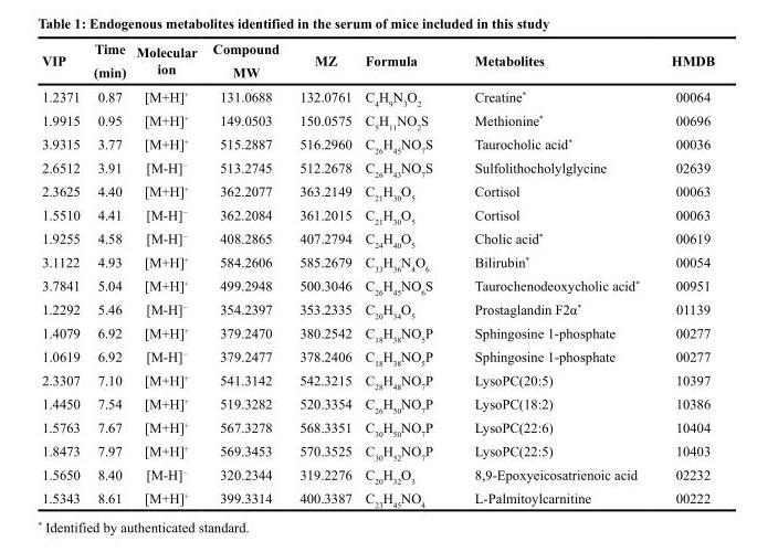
<table><thead><tr><td rowspan="2">VIP</td><td rowspan="2">Time (min)</td><td rowspan="2">Molecular ion</td><td rowspan="2">Compound MW</td><td rowspan="2">MZ</td><td rowspan="2">Formula</td><td rowspan="2">Metabolites</td><td rowspan="2">HMDB</td></tr><tr></tr></thead><tbody><tr><td>1.2371</td><td>0.87</td><td>[M+H]<sup>+</sup></td><td>131.0688</td><td>132.0761</td><td>C<sub>4</sub>H<sub>9</sub>N<sub>3</sub>O<sub>2</sub></td><td>Creatine*</td><td>00064</td></tr><tr><td>1.9915</td><td>0.95</td><td>[M+H]<sup>+</sup></td><td>149.0503</td><td>150.0575</td><td>C<sub>5</sub>H<sub>11</sub>NO<sub>2</sub>S</td><td>Methionine*</td><td>00696</td></tr><tr><td>3.9315</td><td>3.77</td><td>[M+H]<sup>+</sup></td><td>515.2887</td><td>516.2960</td><td>C<sub>26</sub>H<sub>45</sub>NO<sub>7</sub>S</td><td>Taurocholic acid*</td><td>00036</td></tr><tr><td>2.6512</td><td>3.91</td><td>[M-H]<sup>−</sup></td><td>513.2745</td><td>512.2678</td><td>C<sub>26</sub>H<sub>43</sub>NO<sub>7</sub>S</td><td>Sulfolithocholylglycine</td><td>02639</td></tr><tr><td>2.3625</td><td>4.40</td><td>[M+H]<sup>+</sup></td><td>362.2077</td><td>363.2149</td><td>C<sub>21</sub>H<sub>30</sub>O<sub>5</sub></td><td>Cortisol</td><td>00063</td></tr><tr><td>1.5510</td><td>4.41</td><td>[M-H]<sup>−</sup></td><td>362.2084</td><td>361.2015</td><td>C<sub>21</sub>H<sub>30</sub>O<sub>5</sub></td><td>Cortisol</td><td>00063</td></tr><tr><td>1.9255</td><td>4.58</td><td>[M-H]<sup>−</sup></td><td>408.2865</td><td>407.2794</td><td>C<sub>24</sub>H<sub>40</sub>O<sub>5</sub></td><td>Cholic acid*</td><td>00619</td></tr><tr><td>3.1122</td><td>4.93</td><td>[M+H]<sup>+</sup></td><td>584.2606</td><td>585.2679</td><td>C<sub>33</sub>H<sub>36</sub>N<sub>4</sub>O<sub>6</sub></td><td>Bilirubin*</td><td>00054</td></tr><tr><td>3.7841</td><td>5.04</td><td>[M+H]<sup>+</sup></td><td>499.2948</td><td>500.3046</td><td>C<sub>26</sub>H<sub>45</sub>NO<sub>6</sub>S</td><td>Taurochenodeoxycholic acid*</td><td>00951</td></tr><tr><td>1.2292</td><td>5.46</td><td>[M-H]<sup>−</sup></td><td>354.2397</td><td>353.2335</td><td>C<sub>20</sub>H<sub>34</sub>O<sub>5</sub></td><td>Prostaglandin F2α*</td><td>01139</td></tr><tr><td>1.4079</td><td>6.92</td><td>[M+H]<sup>+</sup></td><td>379.2470</td><td>380.2542</td><td>C<sub>18</sub>H<sub>38</sub>NO<sub>5</sub>P</td><td>Sphingosine 1-phosphate</td><td>00277</td></tr><tr><td>1.0619</td><td>6.92</td><td>[M-H]<sup>−</sup></td><td>379.2477</td><td>378.2406</td><td>C<sub>18</sub>H<sub>38</sub>NO<sub>5</sub>P</td><td>Sphingosine 1-phosphate</td><td>00277</td></tr><tr><td>2.3307</td><td>7.10</td><td>[M+H]<sup>+</sup></td><td>541.3142</td><td>542.3215</td><td>C<sub>28</sub>H<sub>48</sub>NO<sub>7</sub>P</td><td>LysoPC(20:5)</td><td>10397</td></tr><tr><td>1.4450</td><td>7.54</td><td>[M+H]<sup>+</sup></td><td>519.3282</td><td>520.3354</td><td>C<sub>26</sub>H<sub>50</sub>NO<sub>7</sub>P</td><td>LysoPC(18:2)</td><td>10386</td></tr><tr><td>1.5763</td><td>7.67</td><td>[M+H]<sup>+</sup></td><td>567.3278</td><td>568.3351</td><td>C<sub>30</sub>H<sub>50</sub>NO<sub>7</sub>P</td><td>LysoPC(22:6)</td><td>10404</td></tr><tr><td>1.8473</td><td>7.97</td><td>[M+H]<sup>+</sup></td><td>569.3453</td><td>570.3525</td><td>C<sub>30</sub>H<sub>52</sub>NO<sub>7</sub>P</td><td>LysoPC(22:5)</td><td>10403</td></tr><tr><td>1.5650</td><td>8.40</td><td>[M-H]<sup>−</sup></td><td>320.2344</td><td>319.2276</td><td>C<sub>20</sub>H<sub>32</sub>O<sub>3</sub></td><td>8,9-Epoxyeicosatrienoic acid</td><td>02232</td></tr><tr><td>1.5343</td><td>8.61</td><td>[M+H]<sup>+</sup></td><td>399.3314</td><td>400.3387</td><td>C<sub>23</sub>H<sub>45</sub>NO<sub>4</sub></td><td>L-Palmitoylcarnitine</td><td>00222</td></tr></tbody></table>